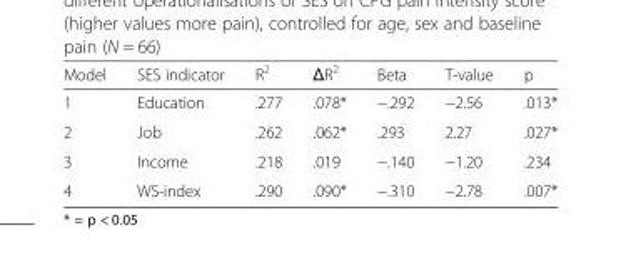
<table><thead><tr><td>Model</td><td>SES indicator</td><td>R<sup>2</sup></td><td>ΔR<sup>2</sup></td><td>Beta</td><td>T-value</td><td>p</td></tr></thead><tbody><tr><td>1</td><td>Education</td><td>.277</td><td>.078*</td><td>−.292</td><td>−2.56</td><td>.013*</td></tr><tr><td>2</td><td>Job</td><td>.262</td><td>.062*</td><td>.293</td><td>2.27</td><td>.027*</td></tr><tr><td>3</td><td>Income</td><td>.218</td><td>.019</td><td>−.140</td><td>−1.20</td><td>.234</td></tr><tr><td>4</td><td>WS-index</td><td>.290</td><td>.090*</td><td>−.310</td><td>−2.78</td><td>.007*</td></tr></tbody></table>